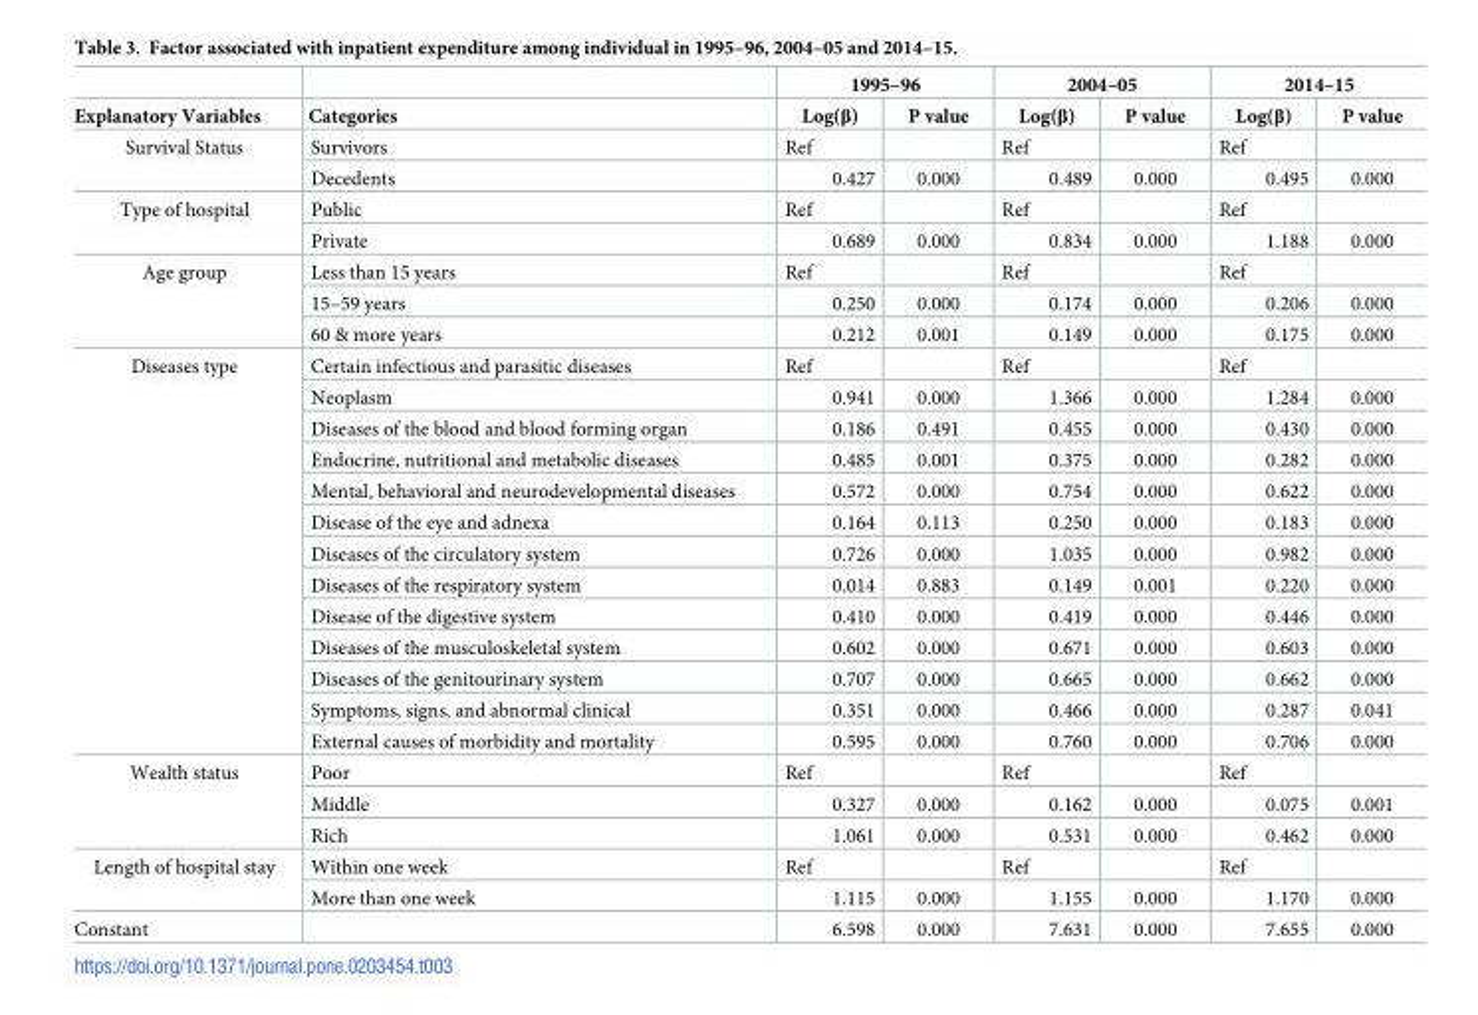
<table><thead><tr><td rowspan="2">Explanatory Variables</td><td rowspan="2">Categories</td><td colspan="2">1995–96</td><td colspan="2">2004–05</td><td colspan="2">2014–15</td></tr><tr><td>Log(β)</td><td>P value</td><td>Log(β)</td><td>P value</td><td>Log(β)</td><td>P value</td></tr></thead><tbody><tr><td rowspan="2">Survival Status</td><td>Survivors</td><td>Ref</td><td></td><td>Ref</td><td></td><td>Ref</td><td></td></tr><tr><td>Decedents</td><td>0.427</td><td>0.000</td><td>0.489</td><td>0.000</td><td>0.495</td><td>0.000</td></tr><tr><td rowspan="2">Type of hospital</td><td>Public</td><td>Ref</td><td></td><td>Ref</td><td></td><td>Ref</td><td></td></tr><tr><td>Private</td><td>0.689</td><td>0.000</td><td>0.834</td><td>0.000</td><td>1.188</td><td>0.000</td></tr><tr><td rowspan="3">Age group</td><td>Less than 15 years</td><td>Ref</td><td></td><td>Ref</td><td></td><td>Ref</td><td></td></tr><tr><td>15–59 years</td><td>0.250</td><td>0.000</td><td>0.174</td><td>0.000</td><td>0.206</td><td>0.000</td></tr><tr><td>60 &amp; more years</td><td>0.212</td><td>0.001</td><td>0.149</td><td>0.000</td><td>0.175</td><td>0.000</td></tr><tr><td rowspan="13">Diseases type</td><td>Certain infectious and parasitic diseases</td><td>Ref</td><td></td><td>Ref</td><td></td><td>Ref</td><td></td></tr><tr><td>Neoplasm</td><td>0.941</td><td>0.000</td><td>1.366</td><td>0.000</td><td>1.284</td><td>0.000</td></tr><tr><td>Diseases of the blood and blood forming organ</td><td>0.186</td><td>0.491</td><td>0.455</td><td>0.000</td><td>0.430</td><td>0.000</td></tr><tr><td>Endocrine, nutritional and metabolic diseases</td><td>0.485</td><td>0.001</td><td>0.375</td><td>0.000</td><td>0.282</td><td>0.000</td></tr><tr><td>Mental, behavioral and neurodevelopmental diseases</td><td>0.572</td><td>0.000</td><td>0.754</td><td>0.000</td><td>0.622</td><td>0.000</td></tr><tr><td>Disease of the eye and adnexa</td><td>0.164</td><td>0.113</td><td>0.250</td><td>0.000</td><td>0.183</td><td>0.000</td></tr><tr><td>Diseases of the circulatory system</td><td>0.726</td><td>0.000</td><td>1.035</td><td>0.000</td><td>0.982</td><td>0.000</td></tr><tr><td>Diseases of the respiratory system</td><td>0.014</td><td>0.883</td><td>0.149</td><td>0.001</td><td>0.220</td><td>0.000</td></tr><tr><td>Disease of the digestive system</td><td>0.410</td><td>0.000</td><td>0.419</td><td>0.000</td><td>0.446</td><td>0.000</td></tr><tr><td>Diseases of the musculoskeletal system</td><td>0.602</td><td>0.000</td><td>0.671</td><td>0.000</td><td>0.603</td><td>0.000</td></tr><tr><td>Diseases of the genitourinary system</td><td>0.707</td><td>0.000</td><td>0.665</td><td>0.000</td><td>0.662</td><td>0.000</td></tr><tr><td>Symptoms, signs, and abnormal clinical</td><td>0.351</td><td>0.000</td><td>0.466</td><td>0.000</td><td>0.287</td><td>0.041</td></tr><tr><td>External causes of morbidity and mortality</td><td>0.595</td><td>0.000</td><td>0.760</td><td>0.000</td><td>0.706</td><td>0.000</td></tr><tr><td rowspan="3">Wealth status</td><td>Poor</td><td>Ref</td><td></td><td>Ref</td><td></td><td>Ref</td><td></td></tr><tr><td>Middle</td><td>0.327</td><td>0.000</td><td>0.162</td><td>0.000</td><td>0.075</td><td>0.001</td></tr><tr><td>Rich</td><td>1.061</td><td>0.000</td><td>0.531</td><td>0.000</td><td>0.462</td><td>0.000</td></tr><tr><td rowspan="2">Length of hospital stay</td><td>Within one week</td><td>Ref</td><td></td><td>Ref</td><td></td><td>Ref</td><td></td></tr><tr><td>More than one week</td><td>1.115</td><td>0.000</td><td>1.155</td><td>0.000</td><td>1.170</td><td>0.000</td></tr><tr><td>Constant</td><td></td><td>6.598</td><td>0.000</td><td>7.631</td><td>0.000</td><td>7.655</td><td>0.000</td></tr></tbody></table>